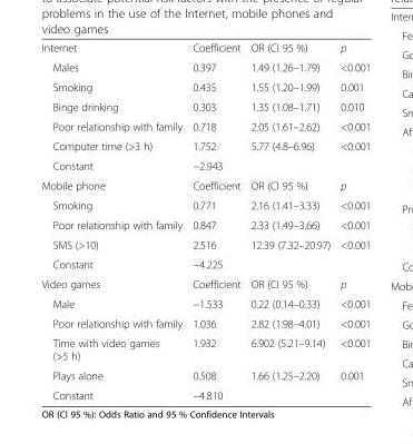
<table><tbody><tr><td>Internet</td><td>Coefficient</td><td>OR (CI 95 %)</td><td>p</td></tr><tr><td>Males</td><td>0.397</td><td>1.49 (1.26–1.79)</td><td>&lt;0.001</td></tr><tr><td>Smoking</td><td>0.435</td><td>1.55 (1.20–1.99)</td><td>0.001</td></tr><tr><td>Binge drinking</td><td>0.303</td><td>1.35 (1.08–1.71)</td><td>0.010</td></tr><tr><td>Poor relationship with family</td><td>0.718</td><td>2.05 (1.61–2.62)</td><td>&lt;0.001</td></tr><tr><td>Computer time (&gt;3 h)</td><td>1.752</td><td>5.77 (4.8–6.96)</td><td>&lt;0.001</td></tr><tr><td>Constant</td><td>−2.943</td><td></td><td></td></tr><tr><td>Mobile phone</td><td>Coefficient</td><td>OR (CI 95 %)</td><td>p</td></tr><tr><td>Smoking</td><td>0.771</td><td>2.16 (1.41–3.33)</td><td>&lt;0.001</td></tr><tr><td>Poor relationship with family</td><td>0.847</td><td>2.33 (1.49–3.66)</td><td>&lt;0.001</td></tr><tr><td>SMS (&gt;10)</td><td>2.516</td><td>12.39 (7.32–20.97)</td><td>&lt;0.001</td></tr><tr><td>Constant</td><td>−4.225</td><td></td><td></td></tr><tr><td>Video games</td><td>Coefficient</td><td>OR (CI 95 %)</td><td>p</td></tr><tr><td>Male</td><td>−1.533</td><td>0.22 (0.14–0.33)</td><td>&lt;0.001</td></tr><tr><td>Poor relationship with family</td><td>1.036</td><td>2.82 (1.98–4.01)</td><td>&lt;0.001</td></tr><tr><td>Time with video games (&gt;5 h)</td><td>1.932</td><td>6.902 (5.21–9.14)</td><td>&lt;0.001</td></tr><tr><td>Plays alone</td><td>0.508</td><td>1.66 (1.25–2.20)</td><td>0.001</td></tr><tr><td>Constant</td><td>−4.810</td><td></td><td></td></tr></tbody></table>